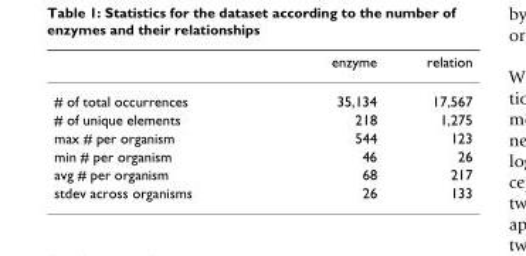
<table><thead><tr><td></td><td>enzyme</td><td>relation</td></tr></thead><tbody><tr><td># of total occurrences</td><td>35,134</td><td>17,567</td></tr><tr><td># of unique elements</td><td>218</td><td>1,275</td></tr><tr><td>max # per organism</td><td>544</td><td>123</td></tr><tr><td>min # per organism</td><td>46</td><td>26</td></tr><tr><td>avg # per organism</td><td>68</td><td>217</td></tr><tr><td>stdev across organisms</td><td>26</td><td>133</td></tr></tbody></table>